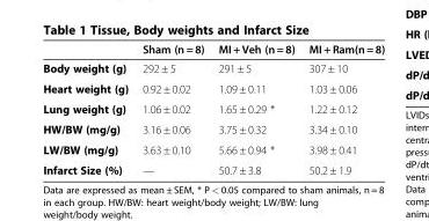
<table><thead><tr><td></td><td>Sham (n = 8)</td><td>MI + Veh (n = 8)</td><td>MI + Ram(n = 8)</td></tr></thead><tbody><tr><td>Body weight (g)</td><td>292 ± 5</td><td>291 ± 5</td><td>307 ± 10</td></tr><tr><td>Heart weight (g)</td><td>0.92 ± 0.02</td><td>1.09 ± 0.11</td><td>1.03 ± 0.06</td></tr><tr><td>Lung weight (g)</td><td>1.06 ± 0.02</td><td>1.65 ± 0.29 *</td><td>1.22 ± 0.12</td></tr><tr><td>HW/BW (mg/g)</td><td>3.16 ± 0.06</td><td>3.75 ± 0.32</td><td>3.34 ± 0.10</td></tr><tr><td>LW/BW (mg/g)</td><td>3.63 ± 0.10</td><td>5.66 ± 0.94 *</td><td>3.98 ± 0.41</td></tr><tr><td>Infarct Size (%)</td><td>—</td><td>50.7 ± 3.8</td><td>50.2 ± 1.9</td></tr></tbody></table>